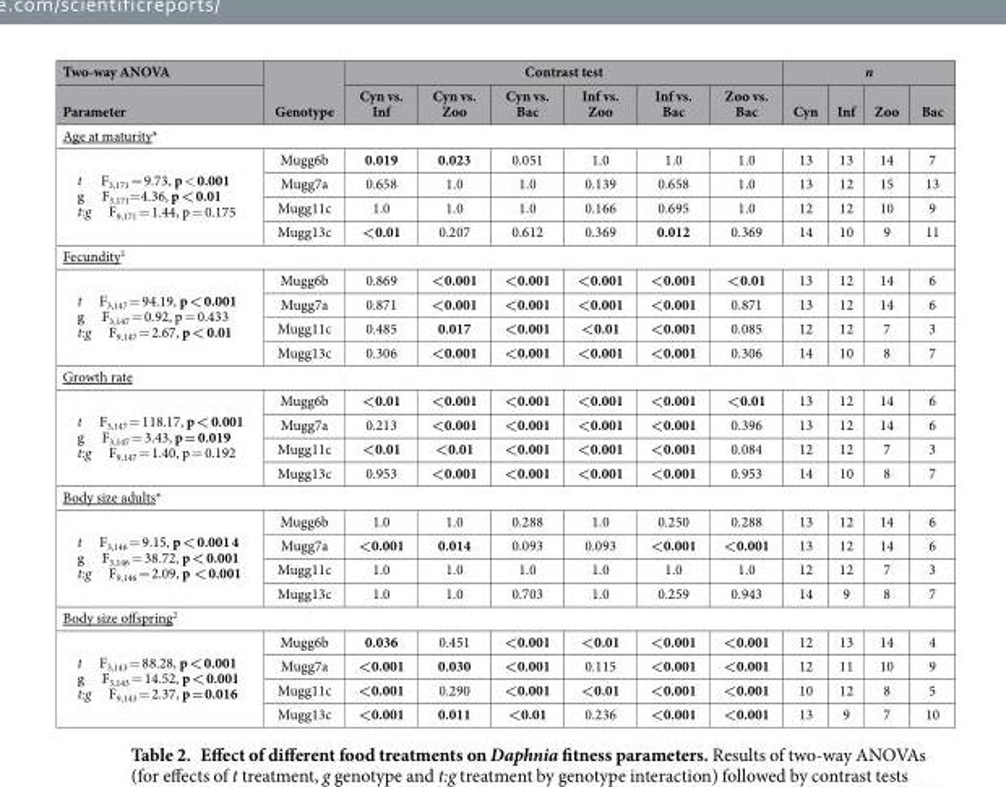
<table><thead><tr><td rowspan="2">Two-way ANOVA Parameter</td><td rowspan="2">Genotype</td><td colspan="6">Contrast test</td><td colspan="4">n</td></tr><tr><td>Cyn vs. Inf</td><td>Cyn vs. Zoo</td><td>Cyn vs. Bac</td><td>Inf vs. Zoo</td><td>Inf vs. Bac</td><td>Zoo vs. Bac</td><td>Cyn</td><td>Inf</td><td>Zoo</td><td>Bac</td></tr></thead><tbody><tr><td colspan="12">Age at maturity*</td></tr><tr><td rowspan="4">t F<sub>3,171</sub> = 9.73, p &lt; 0.001 g F<sub>3,171</sub>= 4.36, p &lt; 0.01 t:g F<sub>9,171</sub> = 1.44, p = 0.175</td><td>Mugg6b</td><td>0.019</td><td>0.023</td><td>0.051</td><td>1.0</td><td>1.0</td><td>1.0</td><td>13</td><td>13</td><td>14</td><td>7</td></tr><tr><td>Mugg7a</td><td>0.658</td><td>1.0</td><td>1.0</td><td>0.139</td><td>0.658</td><td>1.0</td><td>13</td><td>12</td><td>15</td><td>13</td></tr><tr><td>Mugg11c</td><td>1.0</td><td>1.0</td><td>1.0</td><td>0.166</td><td>0.695</td><td>1.0</td><td>12</td><td>12</td><td>10</td><td>9</td></tr><tr><td>Mugg13c</td><td>&lt;0.01</td><td>0.207</td><td>0.612</td><td>0.369</td><td>0.012</td><td>0.369</td><td>14</td><td>10</td><td>9</td><td>11</td></tr><tr><td colspan="12">Fecundity<sup>1</sup></td></tr><tr><td rowspan="4">t F<sub>3,147</sub> = 94.19, p &lt; 0.001 g F<sub>3,147</sub> = 0.92, p = 0.433 t:g F<sub>9,147</sub> = 2.67, p &lt; 0.01</td><td>Mugg6b</td><td>0.869</td><td>&lt;0.001</td><td>&lt;0.001</td><td>&lt;0.001</td><td>&lt;0.001</td><td>&lt;0.01</td><td>13</td><td>12</td><td>14</td><td>6</td></tr><tr><td>Mugg7a</td><td>0.871</td><td>&lt;0.001</td><td>&lt;0.001</td><td>&lt;0.001</td><td>&lt;0.001</td><td>0.871</td><td>13</td><td>12</td><td>14</td><td>6</td></tr><tr><td>Mugg11c</td><td>0.485</td><td>0.017</td><td>&lt;0.001</td><td>&lt;0.01</td><td>&lt;0.001</td><td>0.085</td><td>12</td><td>12</td><td>7</td><td>3</td></tr><tr><td>Mugg13c</td><td>0.306</td><td>&lt;0.001</td><td>&lt;0.001</td><td>&lt;0.001</td><td>&lt;0.001</td><td>0.306</td><td>14</td><td>10</td><td>8</td><td>7</td></tr><tr><td colspan="12">Growth rate</td></tr><tr><td rowspan="4">t F<sub>3,147</sub> = 118.17, p &lt; 0.001 g F<sub>3,147</sub> = 3.43, p = 0.019 t:g F<sub>9,147</sub> = 1.40, p = 0.192</td><td>Mugg6b</td><td>&lt;0.01</td><td>&lt;0.001</td><td>&lt;0.001</td><td>&lt;0.001</td><td>&lt;0.001</td><td>&lt;0.01</td><td>13</td><td>12</td><td>14</td><td>6</td></tr><tr><td>Mugg7a</td><td>0.213</td><td>&lt;0.001</td><td>&lt;0.001</td><td>&lt;0.001</td><td>&lt;0.001</td><td>0.396</td><td>13</td><td>12</td><td>14</td><td>6</td></tr><tr><td>Mugg11c</td><td>&lt;0.01</td><td>&lt;0.01</td><td>&lt;0.001</td><td>&lt;0.001</td><td>&lt;0.001</td><td>0.084</td><td>12</td><td>12</td><td>7</td><td>3</td></tr><tr><td>Mugg13c</td><td>0.953</td><td>&lt;0.001</td><td>&lt;0.001</td><td>&lt;0.001</td><td>&lt;0.001</td><td>0.953</td><td>14</td><td>10</td><td>8</td><td>7</td></tr><tr><td colspan="12">Body size adults*</td></tr><tr><td rowspan="4">t F<sub>3,146</sub> = 9.15, p &lt; 0.001 4 g F<sub>3,146</sub> = 38.72, p &lt; 0.001 t:g F<sub>9,146</sub> = 2.09, p &lt; 0.001</td><td>Mugg6b</td><td>1.0</td><td>1.0</td><td>0.288</td><td>1.0</td><td>0.250</td><td>0.288</td><td>13</td><td>12</td><td>14</td><td>6</td></tr><tr><td>Mugg7a</td><td>&lt;0.001</td><td>0.014</td><td>0.093</td><td>0.093</td><td>&lt;0.001</td><td>&lt;0.001</td><td>13</td><td>12</td><td>14</td><td>6</td></tr><tr><td>Mugg11c</td><td>1.0</td><td>1.0</td><td>1.0</td><td>1.0</td><td>1.0</td><td>1.0</td><td>12</td><td>12</td><td>7</td><td>3</td></tr><tr><td>Mugg13c</td><td>1.0</td><td>1.0</td><td>0.703</td><td>1.0</td><td>0.259</td><td>0.943</td><td>14</td><td>9</td><td>8</td><td>7</td></tr><tr><td colspan="12">Body size offspring<sup>2</sup></td></tr><tr><td rowspan="4">t F<sub>3,143</sub> = 88.28, p &lt; 0.001 g F<sub>3,143</sub> = 14.52, p &lt; 0.001 t:g F<sub>9,143</sub> = 2.37, p = 0.016</td><td>Mugg6b</td><td>0.036</td><td>0.451</td><td>&lt;0.001</td><td>&lt;0.01</td><td>&lt;0.001</td><td>&lt;0.001</td><td>12</td><td>13</td><td>14</td><td>4</td></tr><tr><td>Mugg7a</td><td>&lt;0.001</td><td>0.030</td><td>&lt;0.001</td><td>0.115</td><td>&lt;0.001</td><td>&lt;0.001</td><td>12</td><td>11</td><td>10</td><td>9</td></tr><tr><td>Mugg11c</td><td>&lt;0.001</td><td>0.290</td><td>&lt;0.001</td><td>&lt;0.01</td><td>&lt;0.001</td><td>&lt;0.001</td><td>10</td><td>12</td><td>8</td><td>5</td></tr><tr><td>Mugg13c</td><td>&lt;0.001</td><td>0.011</td><td>&lt;0.01</td><td>0.236</td><td>&lt;0.001</td><td>&lt;0.001</td><td>13</td><td>9</td><td>7</td><td>10</td></tr></tbody></table>